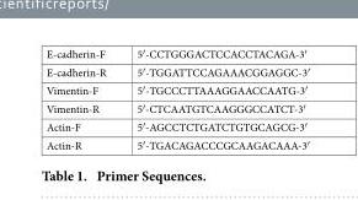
<table><tbody><tr><td>E-cadherin-F</td><td>5′ -CCTGGGACTCCACCTACAGA-3′</td></tr><tr><td>E-cadherin-R</td><td>5′ -TGGATTCCAGAAACGGAGGC-3′</td></tr><tr><td>Vimentin-F</td><td>5′ -TGCCCTTAAAGGAACCAATG-3′</td></tr><tr><td>Vimentin-R</td><td>5′ -CTCAATGTCAAGGGCCATCT-3′</td></tr><tr><td>Actin-F</td><td>5′ -AGCCTCTGATCTGTGCAGCG-3′</td></tr><tr><td>Actin-R</td><td>5′ -TGACAGACCCGCAAGACAAA-3′</td></tr></tbody></table>